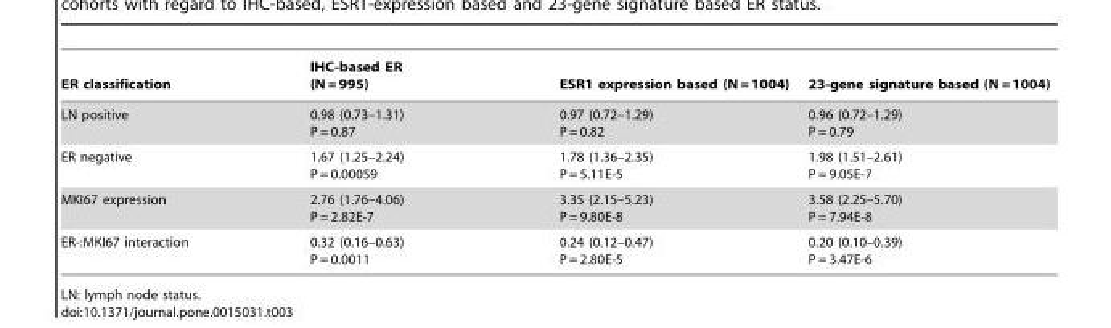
<table><thead><tr><td>ER classification</td><td>IHC-based ER (N = 995)</td><td>ESR1 expression based (N = 1004)</td><td>23-gene signature based (N = 1004)</td></tr></thead><tbody><tr><td>LN positive</td><td>0.98 (0.73–1.31) P = 0.87</td><td>0.97 (0.72–1.29) P = 0.82</td><td>0.96 (0.72–1.29) P = 0.79</td></tr><tr><td>ER negative</td><td>1.67 (1.25–2.24) P = 0.00059</td><td>1.78 (1.36–2.35) P = 5.11E-5</td><td>1.98 (1.51–2.61) P = 9.05E-7</td></tr><tr><td>MKI67 expression</td><td>2.76 (1.76–4.06) P = 2.82E-7</td><td>3.35 (2.15–5.23) P = 9.80E-8</td><td>3.58 (2.25–5.70) P = 7.94E-8</td></tr><tr><td>ER-:MKI67 interaction</td><td>0.32 (0.16–0.63) P = 0.0011</td><td>0.24 (0.12–0.47) P = 2.80E-5</td><td>0.20 (0.10–0.39) P = 3.47E-6</td></tr></tbody></table>